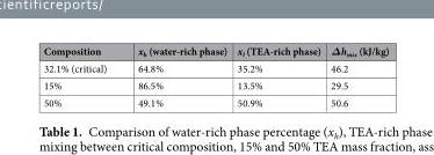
<table><thead><tr><td>Composition</td><td>x<sub>h</sub> (water-rich phase)</td><td>x<sub>l</sub> (TEA-rich phase)</td><td>Δh<sub>mix</sub> (kJ/kg)</td></tr></thead><tbody><tr><td>32.1% (critical)</td><td>64.8%</td><td>35.2%</td><td>46.2</td></tr><tr><td>15%</td><td>86.5%</td><td>13.5%</td><td>29.5</td></tr><tr><td>50%</td><td>49.1%</td><td>50.9%</td><td>50.6</td></tr></tbody></table>